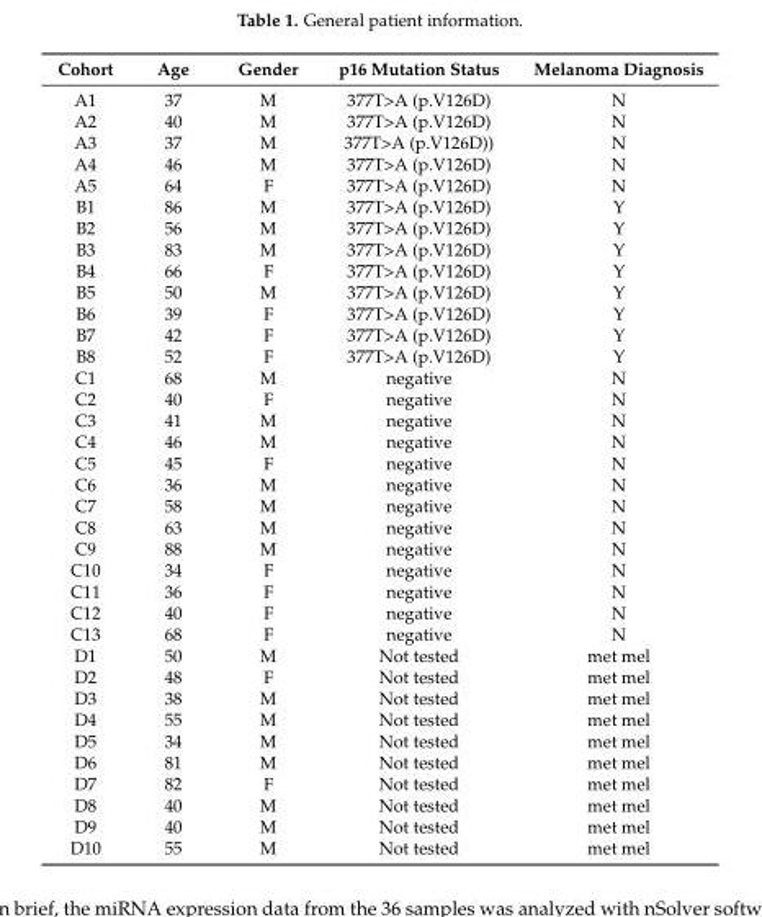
<table><thead><tr><td>Cohort</td><td>Age</td><td>Gender</td><td>p16 Mutation Status</td><td>Melanoma Diagnosis</td></tr></thead><tbody><tr><td>A1</td><td>37</td><td>M</td><td>377T&gt;A (p.V126D)</td><td>N</td></tr><tr><td>A2</td><td>40</td><td>M</td><td>377T&gt;A (p.V126D)</td><td>N</td></tr><tr><td>A3</td><td>37</td><td>M</td><td>377T&gt;A (p.V126D))</td><td>N</td></tr><tr><td>A4</td><td>46</td><td>M</td><td>377T&gt;A (p.V126D)</td><td>N</td></tr><tr><td>A5</td><td>64</td><td>F</td><td>377T&gt;A (p.V126D)</td><td>N</td></tr><tr><td>B1</td><td>86</td><td>M</td><td>377T&gt;A (p.V126D)</td><td>Y</td></tr><tr><td>B2</td><td>56</td><td>M</td><td>377T&gt;A (p.V126D)</td><td>Y</td></tr><tr><td>B3</td><td>83</td><td>M</td><td>377T&gt;A (p.V126D)</td><td>Y</td></tr><tr><td>B4</td><td>66</td><td>F</td><td>377T&gt;A (p.V126D)</td><td>Y</td></tr><tr><td>B5</td><td>50</td><td>M</td><td>377T&gt;A (p.V126D)</td><td>Y</td></tr><tr><td>B6</td><td>39</td><td>F</td><td>377T&gt;A (p.V126D)</td><td>Y</td></tr><tr><td>B7</td><td>42</td><td>F</td><td>377T&gt;A (p.V126D)</td><td>Y</td></tr><tr><td>B8</td><td>52</td><td>F</td><td>377T&gt;A (p.V126D)</td><td>Y</td></tr><tr><td>C1</td><td>68</td><td>M</td><td>negative</td><td>N</td></tr><tr><td>C2</td><td>40</td><td>F</td><td>negative</td><td>N</td></tr><tr><td>C3</td><td>41</td><td>M</td><td>negative</td><td>N</td></tr><tr><td>C4</td><td>46</td><td>M</td><td>negative</td><td>N</td></tr><tr><td>C5</td><td>45</td><td>F</td><td>negative</td><td>N</td></tr><tr><td>C6</td><td>36</td><td>M</td><td>negative</td><td>N</td></tr><tr><td>C7</td><td>58</td><td>M</td><td>negative</td><td>N</td></tr><tr><td>C8</td><td>63</td><td>M</td><td>negative</td><td>N</td></tr><tr><td>C9</td><td>88</td><td>M</td><td>negative</td><td>N</td></tr><tr><td>C10</td><td>34</td><td>F</td><td>negative</td><td>N</td></tr><tr><td>C11</td><td>36</td><td>F</td><td>negative</td><td>N</td></tr><tr><td>C12</td><td>40</td><td>F</td><td>negative</td><td>N</td></tr><tr><td>C13</td><td>68</td><td>F</td><td>negative</td><td>N</td></tr><tr><td>D1</td><td>50</td><td>M</td><td>Not tested</td><td>met mel</td></tr><tr><td>D2</td><td>48</td><td>F</td><td>Not tested</td><td>met mel</td></tr><tr><td>D3</td><td>38</td><td>M</td><td>Not tested</td><td>met mel</td></tr><tr><td>D4</td><td>55</td><td>M</td><td>Not tested</td><td>met mel</td></tr><tr><td>D5</td><td>34</td><td>M</td><td>Not tested</td><td>met mel</td></tr><tr><td>D6</td><td>81</td><td>M</td><td>Not tested</td><td>met mel</td></tr><tr><td>D7</td><td>82</td><td>F</td><td>Not tested</td><td>met mel</td></tr><tr><td>D8</td><td>40</td><td>M</td><td>Not tested</td><td>met mel</td></tr><tr><td>D9</td><td>40</td><td>M</td><td>Not tested</td><td>met mel</td></tr><tr><td>D10</td><td>55</td><td>M</td><td>Not tested</td><td>met mel</td></tr></tbody></table>